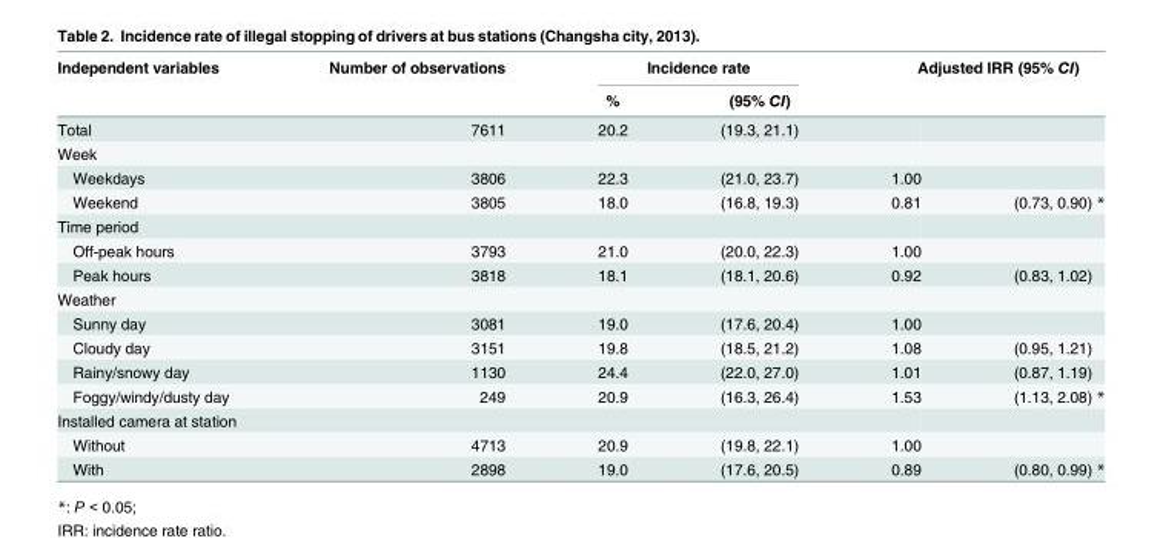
<table><thead><tr><td rowspan="2">Independent variables</td><td rowspan="2">Number of observations</td><td colspan="2">Incidence rate</td><td colspan="2">Adjusted IRR (95% CI)</td></tr><tr><td>%</td><td>(95% CI)</td><td></td><td></td></tr></thead><tbody><tr><td>Total</td><td>7611</td><td>20.2</td><td>(19.3, 21.1)</td><td></td><td></td></tr><tr><td colspan="6">Week</td></tr><tr><td>Weekdays</td><td>3806</td><td>22.3</td><td>(21.0, 23.7)</td><td>1.00</td><td></td></tr><tr><td>Weekend</td><td>3805</td><td>18.0</td><td>(16.8, 19.3)</td><td>0.81</td><td>(0.73, 0.90) *</td></tr><tr><td colspan="6">Time period</td></tr><tr><td>Off-peak hours</td><td>3793</td><td>21.0</td><td>(20.0, 22.3)</td><td>1.00</td><td></td></tr><tr><td>Peak hours</td><td>3818</td><td>18.1</td><td>(18.1, 20.6)</td><td>0.92</td><td>(0.83, 1.02)</td></tr><tr><td colspan="6">Weather</td></tr><tr><td>Sunny day</td><td>3081</td><td>19.0</td><td>(17.6, 20.4)</td><td>1.00</td><td></td></tr><tr><td>Cloudy day</td><td>3151</td><td>19.8</td><td>(18.5, 21.2)</td><td>1.08</td><td>(0.95, 1.21)</td></tr><tr><td>Rainy/snowy day</td><td>1130</td><td>24.4</td><td>(22.0, 27.0)</td><td>1.01</td><td>(0.87, 1.19)</td></tr><tr><td>Foggy/windy/dusty day</td><td>249</td><td>20.9</td><td>(16.3, 26.4)</td><td>1.53</td><td>(1.13, 2.08) *</td></tr><tr><td colspan="6">Installed camera at station</td></tr><tr><td>Without</td><td>4713</td><td>20.9</td><td>(19.8, 22.1)</td><td>1.00</td><td></td></tr><tr><td>With</td><td>2898</td><td>19.0</td><td>(17.6, 20.5)</td><td>0.89</td><td>(0.80, 0.99) *</td></tr></tbody></table>